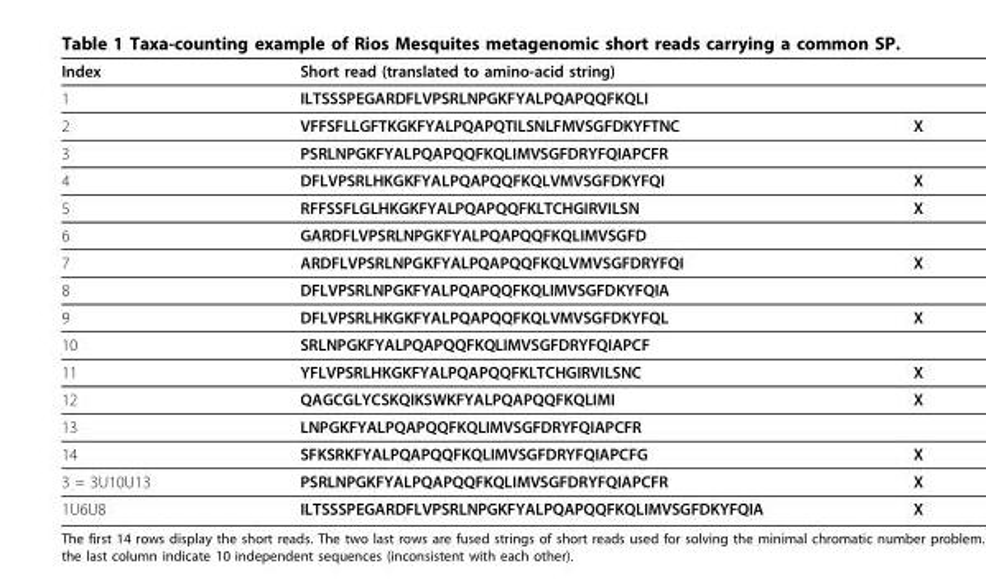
<table><thead><tr><td>Index</td><td>Short read (translated to amino-acid string)</td><td></td></tr></thead><tbody><tr><td>1</td><td>ILTSSSPEGARDFLVPSRLNPGKFYALPQAPQQFKQLI</td><td></td></tr><tr><td>2</td><td>VFFSFLLGFTKGKFYALPQAPQTILSNLFMVSGFDKYFTNC</td><td>X</td></tr><tr><td>3</td><td>PSRLNPGKFYALPQAPQQFKQLIMVSGFDRYFQIAPCFR</td><td></td></tr><tr><td>4</td><td>DFLVPSRLHKGKFYALPQAPQQFKQLVMVSGFDKYFQI</td><td>X</td></tr><tr><td>5</td><td>RFFSSFLGLHKGKFYALPQAPQQFKLTCHGIRVILSN</td><td>X</td></tr><tr><td>6</td><td>GARDFLVPSRLNPGKFYALPQAPQQFKQLIMVSGFD</td><td></td></tr><tr><td>7</td><td>ARDFLVPSRLNPGKFYALPQAPQQFKQLVMVSGFDRYFQI</td><td>X</td></tr><tr><td>8</td><td>DFLVPSRLNPGKFYALPQAPQQFKQLIMVSGFDKYFQIA</td><td></td></tr><tr><td>9</td><td>DFLVPSRLHKGKFYALPQAPQQFKQLVMVSGFDKYFQL</td><td>X</td></tr><tr><td>10</td><td>SRLNPGKFYALPQAPQQFKQLIMVSGFDRYFQIAPCF</td><td></td></tr><tr><td>11</td><td>YFLVPSRLHKGKFYALPQAPQQFKLTCHGIRVILSNC</td><td>X</td></tr><tr><td>12</td><td>QAGCGLYCSKQIKSWKFYALPQAPQQFKQLIMI</td><td>X</td></tr><tr><td>13</td><td>LNPGKFYALPQAPQQFKQLIMVSGFDRYFQIAPCFR</td><td></td></tr><tr><td>14</td><td>SFKSRKFYALPQAPQQFKQLIMVSGFDRYFQIAPCFG</td><td>X</td></tr><tr><td>3 = 3U10U13</td><td>PSRLNPGKFYALPQAPQQFKQLIMVSGFDRYFQIAPCFR</td><td>X</td></tr><tr><td>1U6U8</td><td>ILTSSSPEGARDFLVPSRLNPGKFYALPQAPQQFKQLIMVSGFDKYFQIA</td><td>X</td></tr></tbody></table>